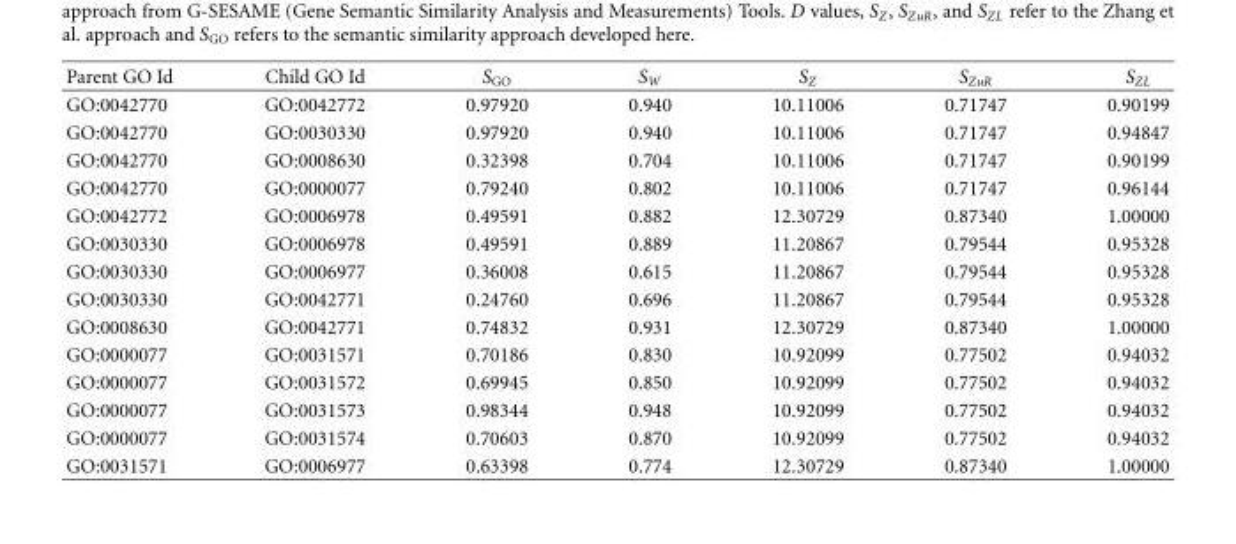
<table><thead><tr><td>Parent GO Id</td><td>Child GO Id</td><td>S<sub>GO</sub></td><td>S<sub>W</sub></td><td>S<sub>Z</sub></td><td>S<sub>ZuR</sub></td><td>S<sub>ZL</sub></td></tr></thead><tbody><tr><td>GO:0042770</td><td>GO:0042772</td><td>0.97920</td><td>0.940</td><td>10.11006</td><td>0.71747</td><td>0.90199</td></tr><tr><td>GO:0042770</td><td>GO:0030330</td><td>0.97920</td><td>0.940</td><td>10.11006</td><td>0.71747</td><td>0.94847</td></tr><tr><td>GO:0042770</td><td>GO:0008630</td><td>0.32398</td><td>0.704</td><td>10.11006</td><td>0.71747</td><td>0.90199</td></tr><tr><td>GO:0042770</td><td>GO:0000077</td><td>0.79240</td><td>0.802</td><td>10.11006</td><td>0.71747</td><td>0.96144</td></tr><tr><td>GO:0042772</td><td>GO:0006978</td><td>0.49591</td><td>0.882</td><td>12.30729</td><td>0.87340</td><td>1.00000</td></tr><tr><td>GO:0030330</td><td>GO:0006978</td><td>0.49591</td><td>0.889</td><td>11.20867</td><td>0.79544</td><td>0.95328</td></tr><tr><td>GO:0030330</td><td>GO:0006977</td><td>0.36008</td><td>0.615</td><td>11.20867</td><td>0.79544</td><td>0.95328</td></tr><tr><td>GO:0030330</td><td>GO:0042771</td><td>0.24760</td><td>0.696</td><td>11.20867</td><td>0.79544</td><td>0.95328</td></tr><tr><td>GO:0008630</td><td>GO:0042771</td><td>0.74832</td><td>0.931</td><td>12.30729</td><td>0.87340</td><td>1.00000</td></tr><tr><td>GO:0000077</td><td>GO:0031571</td><td>0.70186</td><td>0.830</td><td>10.92099</td><td>0.77502</td><td>0.94032</td></tr><tr><td>GO:0000077</td><td>GO:0031572</td><td>0.69945</td><td>0.850</td><td>10.92099</td><td>0.77502</td><td>0.94032</td></tr><tr><td>GO:0000077</td><td>GO:0031573</td><td>0.98344</td><td>0.948</td><td>10.92099</td><td>0.77502</td><td>0.94032</td></tr><tr><td>GO:0000077</td><td>GO:0031574</td><td>0.70603</td><td>0.870</td><td>10.92099</td><td>0.77502</td><td>0.94032</td></tr><tr><td>GO:0031571</td><td>GO:0006977</td><td>0.63398</td><td>0.774</td><td>12.30729</td><td>0.87340</td><td>1.00000</td></tr></tbody></table>